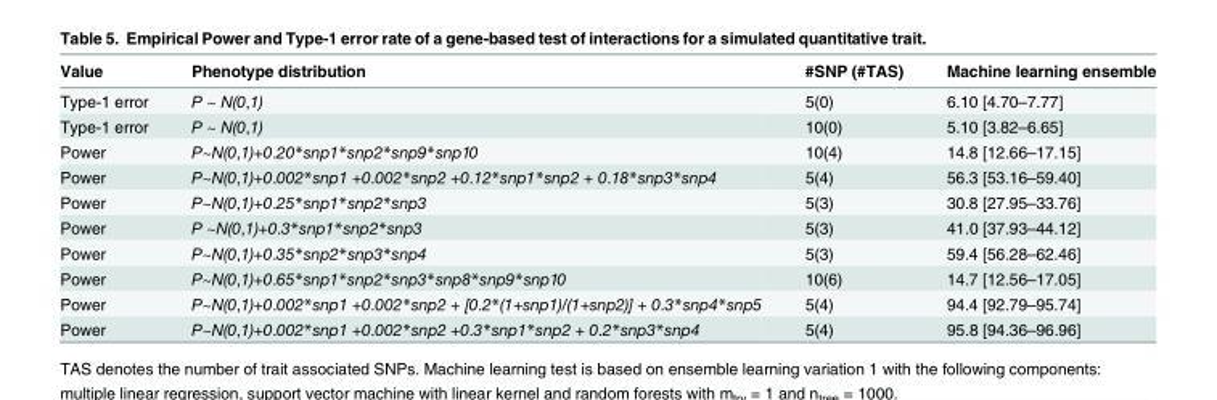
<table><thead><tr><td>Value</td><td>Phenotype distribution</td><td>#SNP (#TAS)</td><td>Machine learning ensemble</td></tr></thead><tbody><tr><td>Type-1 error</td><td>P ~ N(0,1)</td><td>5(0)</td><td>6.10 [4.70–7.77]</td></tr><tr><td>Type-1 error</td><td>P ~ N(0,1)</td><td>10(0)</td><td>5.10 [3.82–6.65]</td></tr><tr><td>Power</td><td>P~N(0,1)+0.20*snp1*snp2*snp9*snp10</td><td>10(4)</td><td>14.8 [12.66–17.15]</td></tr><tr><td>Power</td><td>P~N(0,1)+0.002*snp1 +0.002*snp2 +0.12*snp1*snp2 + 0.18*snp3*snp4</td><td>5(4)</td><td>56.3 [53.16–59.40]</td></tr><tr><td>Power</td><td>P~N(0,1)+0.25*snp1*snp2*snp3</td><td>5(3)</td><td>30.8 [27.95–33.76]</td></tr><tr><td>Power</td><td>P ~N(0,1)+0.3*snp1*snp2*snp3</td><td>5(3)</td><td>41.0 [37.93–44.12]</td></tr><tr><td>Power</td><td>P~N(0,1)+0.35*snp2*snp3*snp4</td><td>5(3)</td><td>59.4 [56.28–62.46]</td></tr><tr><td>Power</td><td>P~N(0,1)+0.65*snp1*snp2*snp3*snp8*snp9*snp10</td><td>10(6)</td><td>14.7 [12.56–17.05]</td></tr><tr><td>Power</td><td>P~N(0,1)+0.002*snp1 +0.002*snp2 + [0.2*(1+snp1)/(1+snp2)] + 0.3*snp4*snp5</td><td>5(4)</td><td>94.4 [92.79–95.74]</td></tr><tr><td>Power</td><td>P~N(0,1)+0.002*snp1 +0.002*snp2 +0.3*snp1*snp2 + 0.2*snp3*snp4</td><td>5(4)</td><td>95.8 [94.36–96.96]</td></tr></tbody></table>